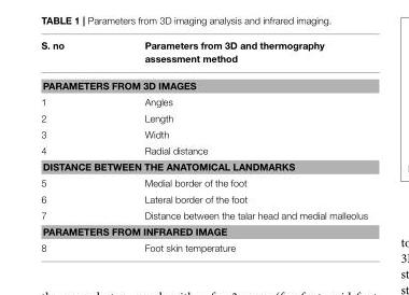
<table><thead><tr><td>S. no</td><td>Parameters from 3D and thermography assessment method</td></tr></thead><tbody><tr><td colspan="2">PARAMETERS FROM 3D IMAGES</td></tr><tr><td>1</td><td>Angles</td></tr><tr><td>2</td><td>Length</td></tr><tr><td>3</td><td>Width</td></tr><tr><td>4</td><td>Radial distance</td></tr><tr><td colspan="2">DISTANCE BETWEEN THE ANATOMICAL LANDMARKS</td></tr><tr><td>5</td><td>Medial border of the foot</td></tr><tr><td>6</td><td>Lateral border of the foot</td></tr><tr><td>7</td><td>Distance between the talar head and medial malleolus</td></tr><tr><td colspan="2">PARAMETERS FROM INFRARED IMAGE</td></tr><tr><td>8</td><td>Foot skin temperature</td></tr></tbody></table>